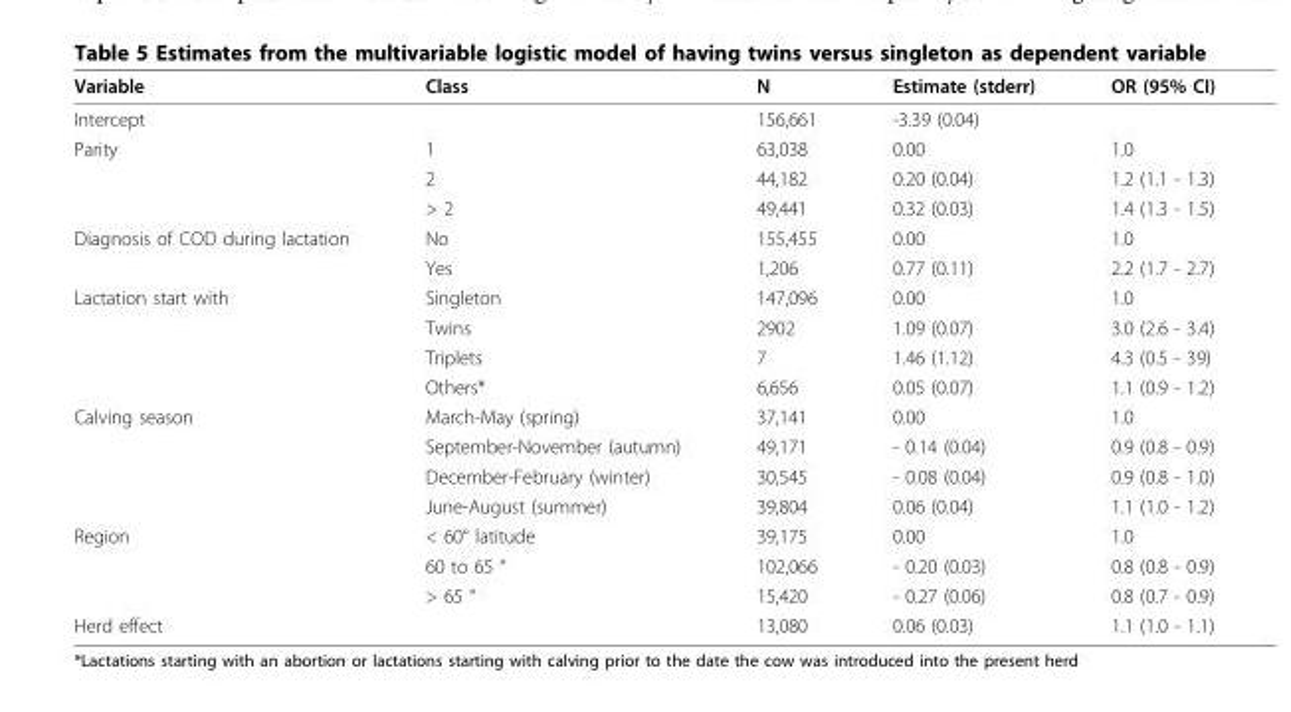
<table><thead><tr><td>Variable</td><td>Class</td><td>N</td><td>Estimate (stderr)</td><td>OR (95% CI)</td></tr></thead><tbody><tr><td>Intercept</td><td></td><td>156,661</td><td>-3.39 (0.04)</td><td></td></tr><tr><td rowspan="3">Parity</td><td>1</td><td>63,038</td><td>0.00</td><td>1.0</td></tr><tr><td>2</td><td>44,182</td><td>0.20 (0.04)</td><td>1.2 (1.1 - 1.3)</td></tr><tr><td>&gt; 2</td><td>49,441</td><td>0.32 (0.03)</td><td>1.4 (1.3 - 1.5)</td></tr><tr><td rowspan="2">Diagnosis of COD during lactation</td><td>No</td><td>155,455</td><td>0.00</td><td>1.0</td></tr><tr><td>Yes</td><td>1,206</td><td>0.77 (0.11)</td><td>2.2 (1.7 - 2.7)</td></tr><tr><td rowspan="4">Lactation start with</td><td>Singleton</td><td>147,096</td><td>0.00</td><td>1.0</td></tr><tr><td>Twins</td><td>2902</td><td>1.09 (0.07)</td><td>3.0 (2.6 - 3.4)</td></tr><tr><td>Triplets</td><td>7</td><td>1.46 (1.12)</td><td>4.3 (0.5 - 39)</td></tr><tr><td>Others*</td><td>6,656</td><td>0.05 (0.07)</td><td>1.1 (0.9 - 1.2)</td></tr><tr><td rowspan="4">Calving season</td><td>March-May (spring)</td><td>37,141</td><td>0.00</td><td>1.0</td></tr><tr><td>September-November (autumn)</td><td>49,171</td><td>- 0.14 (0.04)</td><td>0.9 (0.8 - 0.9)</td></tr><tr><td>December-February (winter)</td><td>30,545</td><td>- 0.08 (0.04)</td><td>0.9 (0.8 - 1.0)</td></tr><tr><td>June-August (summer)</td><td>39,804</td><td>0.06 (0.04)</td><td>1.1 (1.0 - 1.2)</td></tr><tr><td rowspan="3">Region</td><td>&lt; 60° latitude</td><td>39,175</td><td>0.00</td><td>1.0</td></tr><tr><td>60 to 65 °</td><td>102,066</td><td>- 0.20 (0.03)</td><td>0.8 (0.8 - 0.9)</td></tr><tr><td>&gt; 65 °</td><td>15,420</td><td>- 0.27 (0.06)</td><td>0.8 (0.7 - 0.9)</td></tr><tr><td>Herd effect</td><td></td><td>13,080</td><td>0.06 (0.03)</td><td>1.1 (1.0 - 1.1)</td></tr></tbody></table>